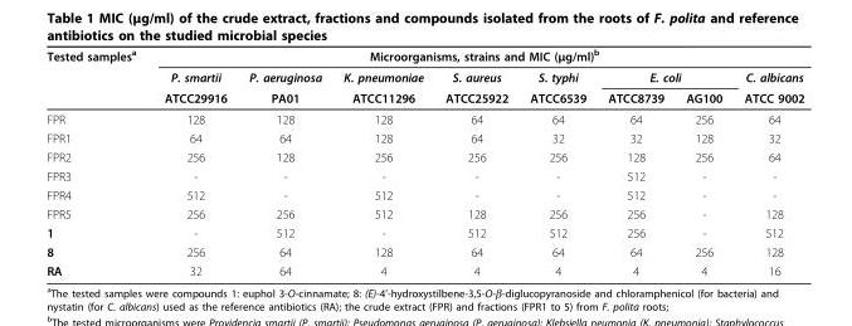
<table><thead><tr><td rowspan="3">Tested samples<sup>a</sup></td><td colspan="8">Microorganisms, strains and MIC (μg/ml)<sup>b</sup></td></tr><tr><td rowspan="2">P. smartii ATCC29916</td><td rowspan="2">P. aeruginosa PA01</td><td rowspan="2">K. pneumoniae ATCC11296</td><td rowspan="2">S. aureus ATCC25922</td><td rowspan="2">S. typhi ATCC6539</td><td colspan="2">E. coli</td><td rowspan="2">C. albicans ATCC 9002</td></tr><tr><td>ATCC8739</td><td>AG100</td></tr></thead><tbody><tr><td>FPR</td><td>128</td><td>128</td><td>128</td><td>64</td><td>64</td><td>64</td><td>256</td><td>64</td></tr><tr><td>FPR1</td><td>64</td><td>64</td><td>128</td><td>64</td><td>32</td><td>32</td><td>128</td><td>32</td></tr><tr><td>FPR2</td><td>256</td><td>128</td><td>256</td><td>256</td><td>256</td><td>128</td><td>256</td><td>64</td></tr><tr><td>FPR3</td><td>-</td><td>-</td><td>-</td><td>-</td><td>-</td><td>512</td><td>-</td><td>-</td></tr><tr><td>FPR4</td><td>512</td><td>-</td><td>512</td><td>-</td><td>-</td><td>512</td><td>-</td><td>-</td></tr><tr><td>FPR5</td><td>256</td><td>256</td><td>512</td><td>128</td><td>256</td><td>256</td><td>-</td><td>128</td></tr><tr><td>1</td><td>-</td><td>512</td><td>-</td><td>512</td><td>512</td><td>256</td><td>-</td><td>512</td></tr><tr><td>8</td><td>256</td><td>64</td><td>128</td><td>64</td><td>64</td><td>64</td><td>256</td><td>128</td></tr><tr><td>RA</td><td>32</td><td>64</td><td>4</td><td>4</td><td>4</td><td>4</td><td>4</td><td>16</td></tr></tbody></table>